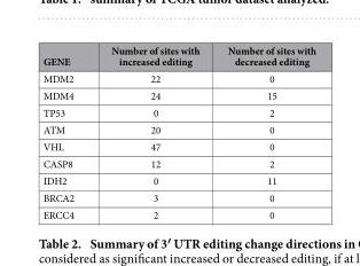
<table><thead><tr><td>GENE</td><td>Number of sites with increased editing</td><td>Number of sites with decreased editing</td></tr></thead><tbody><tr><td>MDM2</td><td>22</td><td>0</td></tr><tr><td>MDM4</td><td>24</td><td>15</td></tr><tr><td>TP53</td><td>0</td><td>2</td></tr><tr><td>ATM</td><td>20</td><td>0</td></tr><tr><td>VHL</td><td>47</td><td>0</td></tr><tr><td>CASP8</td><td>12</td><td>2</td></tr><tr><td>IDH2</td><td>0</td><td>11</td></tr><tr><td>BRCA2</td><td>3</td><td>0</td></tr><tr><td>ERCC4</td><td>2</td><td>0</td></tr></tbody></table>